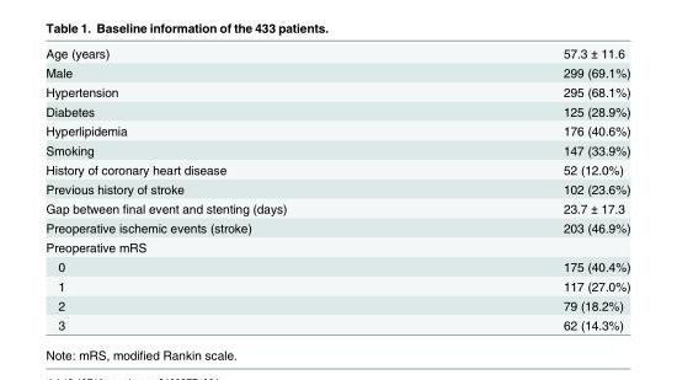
<table><tbody><tr><td>Age (years)</td><td>57.3 ± 11.6</td></tr><tr><td>Male</td><td>299 (69.1%)</td></tr><tr><td>Hypertension</td><td>295 (68.1%)</td></tr><tr><td>Diabetes</td><td>125 (28.9%)</td></tr><tr><td>Hyperlipidemia</td><td>176 (40.6%)</td></tr><tr><td>Smoking</td><td>147 (33.9%)</td></tr><tr><td>History of coronary heart disease</td><td>52 (12.0%)</td></tr><tr><td>Previous history of stroke</td><td>102 (23.6%)</td></tr><tr><td>Gap between final event and stenting (days)</td><td>23.7 ± 17.3</td></tr><tr><td>Preoperative ischemic events (stroke)</td><td>203 (46.9%)</td></tr><tr><td colspan="2">Preoperative mRS</td></tr><tr><td>0</td><td>175 (40.4%)</td></tr><tr><td>1</td><td>117 (27.0%)</td></tr><tr><td>2</td><td>79 (18.2%)</td></tr><tr><td>3</td><td>62 (14.3%)</td></tr></tbody></table>